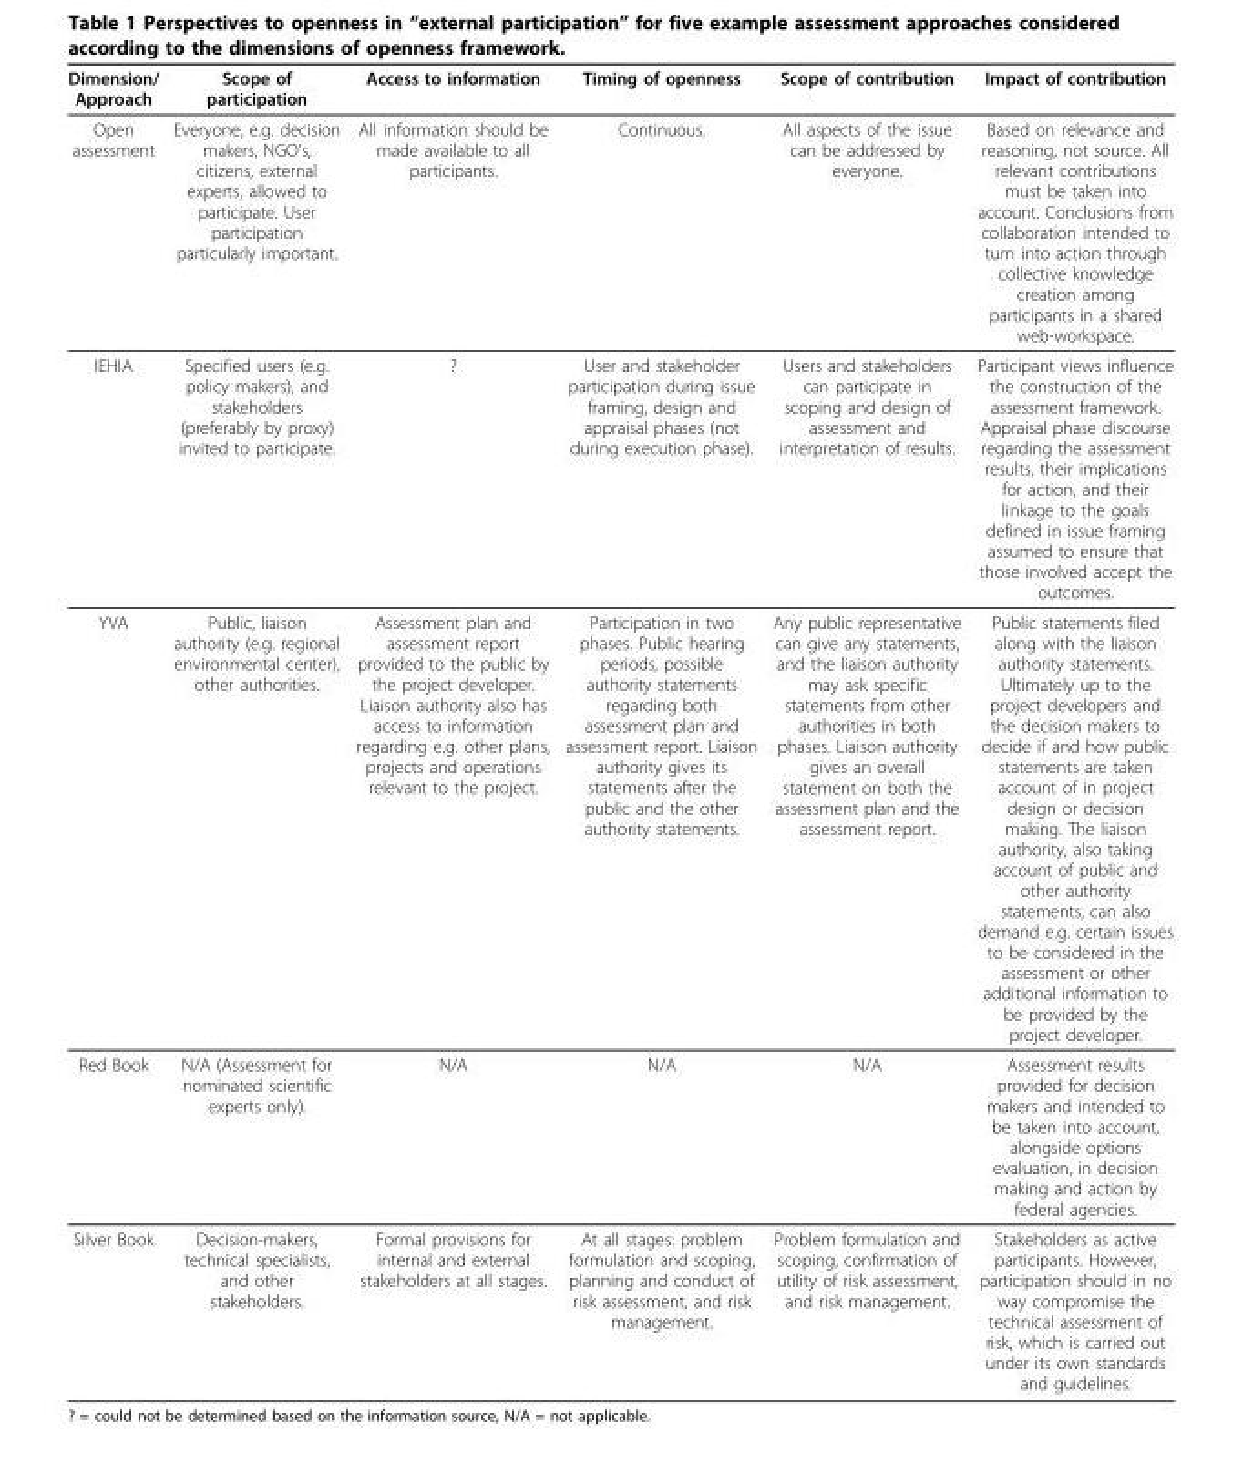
<table><thead><tr><td>Dimension/ Approach</td><td>Scope of participation</td><td>Access to information</td><td>Timing of openness</td><td>Scope of contribution</td><td>Impact of contribution</td></tr></thead><tbody><tr><td>Open assessment</td><td>Everyone, e.g. decision makers, NGO’s, citizens, external experts, allowed to participate. User participation particularly important.</td><td>All information should be made available to all participants.</td><td>Continuous.</td><td>All aspects of the issue can be addressed by everyone.</td><td>Based on relevance and reasoning, not source. All relevant contributions must be taken into account. Conclusions from collaboration intended to turn into action through collective knowledge creation among participants in a shared web-workspace.</td></tr><tr><td>IEHIA</td><td>Specified users (e.g. policy makers), and stakeholders (preferably by proxy) invited to participate.</td><td>?</td><td>User and stakeholder participation during issue framing, design and appraisal phases (not during execution phase).</td><td>Users and stakeholders can participate in scoping and design of assessment and interpretation of results.</td><td>Participant views influence the construction of the assessment framework. Appraisal phase discourse regarding the assessment results, their implications for action, and their linkage to the goals defined in issue framing assumed to ensure that those involved accept the outcomes.</td></tr><tr><td>YVA</td><td>Public, liaison authority (e.g. regional environmental center), other authorities.</td><td>Assessment plan and assessment report provided to the public by the project developer. Liaison authority also has access to information regarding e.g. other plans, projects and operations relevant to the project.</td><td>Participation in two phases. Public hearing periods, possible authority statements regarding both assessment plan and assessment report. Liaison authority gives its statements after the public and the other authority statements.</td><td>Any public representative can give any statements, and the liaison authority may ask specific statements from other authorities in both phases. Liaison authority gives an overall statement on both the assessment plan and the assessment report.</td><td>Public statements filed along with the liaison authority statements. Ultimately up to the project developers and the decision makers to decide if and how public statements are taken account of in project design or decision making. The liaison authority, also taking account of public and other authority statements, can also demand e.g. certain issues to be considered in the assessment or other additional information to be provided by the project developer.</td></tr><tr><td>Red Book</td><td>N/A (Assessment for nominated scientific experts only).</td><td>N/A</td><td>N/A</td><td>N/A</td><td>Assessment results provided for decision makers and intended to be taken into account, alongside options evaluation, in decision making and action by federal agencies.</td></tr><tr><td>Silver Book</td><td>Decision-makers, technical specialists, and other stakeholders.</td><td>Formal provisions for internal and external stakeholders at all stages.</td><td>At all stages: problem formulation and scoping, planning and conduct of risk assessment, and risk management.</td><td>Problem formulation and scoping, confirmation of utility of risk assessment, and risk management.</td><td>Stakeholders as active participants. However, participation should in no way compromise the technical assessment of risk, which is carried out under its own standards and guidelines.</td></tr></tbody></table>